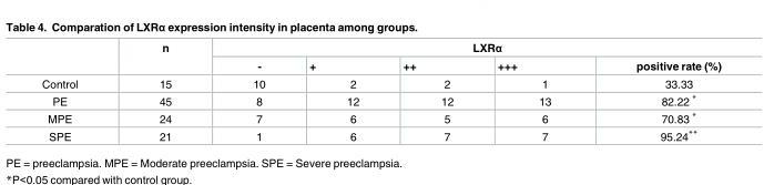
<table><thead><tr><td rowspan="2"></td><td rowspan="2">n</td><td colspan="5">LXRα</td></tr><tr><td>-</td><td>+</td><td>++</td><td>+++</td><td>positive rate (%)</td></tr></thead><tbody><tr><td>Control</td><td>15</td><td>10</td><td>2</td><td>2</td><td>1</td><td>33.33</td></tr><tr><td>PE</td><td>45</td><td>8</td><td>12</td><td>12</td><td>13</td><td>82.22 *</td></tr><tr><td>MPE</td><td>24</td><td>7</td><td>6</td><td>5</td><td>6</td><td>70.83 *</td></tr><tr><td>SPE</td><td>21</td><td>1</td><td>6</td><td>7</td><td>7</td><td>95.24**</td></tr></tbody></table>